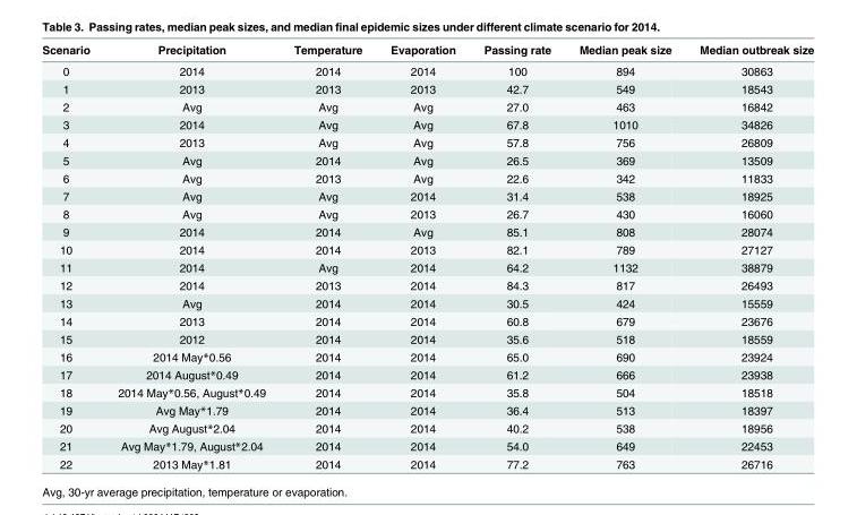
<table><thead><tr><td>Scenario</td><td>Precipitation</td><td>Temperature</td><td>Evaporation</td><td>Passing rate</td><td>Median peak size</td><td>Median outbreak size</td></tr></thead><tbody><tr><td>0</td><td>2014</td><td>2014</td><td>2014</td><td>100</td><td>894</td><td>30863</td></tr><tr><td>1</td><td>2013</td><td>2013</td><td>2013</td><td>42.7</td><td>549</td><td>18543</td></tr><tr><td>2</td><td>Avg</td><td>Avg</td><td>Avg</td><td>27.0</td><td>463</td><td>16842</td></tr><tr><td>3</td><td>2014</td><td>Avg</td><td>Avg</td><td>67.8</td><td>1010</td><td>34826</td></tr><tr><td>4</td><td>2013</td><td>Avg</td><td>Avg</td><td>57.8</td><td>756</td><td>26809</td></tr><tr><td>5</td><td>Avg</td><td>2014</td><td>Avg</td><td>26.5</td><td>369</td><td>13509</td></tr><tr><td>6</td><td>Avg</td><td>2013</td><td>Avg</td><td>22.6</td><td>342</td><td>11833</td></tr><tr><td>7</td><td>Avg</td><td>Avg</td><td>2014</td><td>31.4</td><td>538</td><td>18925</td></tr><tr><td>8</td><td>Avg</td><td>Avg</td><td>2013</td><td>26.7</td><td>430</td><td>16060</td></tr><tr><td>9</td><td>2014</td><td>2014</td><td>Avg</td><td>85.1</td><td>808</td><td>28074</td></tr><tr><td>10</td><td>2014</td><td>2014</td><td>2013</td><td>82.1</td><td>789</td><td>27127</td></tr><tr><td>11</td><td>2014</td><td>Avg</td><td>2014</td><td>64.2</td><td>1132</td><td>38879</td></tr><tr><td>12</td><td>2014</td><td>2013</td><td>2014</td><td>84.3</td><td>817</td><td>26493</td></tr><tr><td>13</td><td>Avg</td><td>2014</td><td>2014</td><td>30.5</td><td>424</td><td>15559</td></tr><tr><td>14</td><td>2013</td><td>2014</td><td>2014</td><td>60.8</td><td>679</td><td>23676</td></tr><tr><td>15</td><td>2012</td><td>2014</td><td>2014</td><td>35.6</td><td>518</td><td>18559</td></tr><tr><td>16</td><td>2014 May*0.56</td><td>2014</td><td>2014</td><td>65.0</td><td>690</td><td>23924</td></tr><tr><td>17</td><td>2014 August*0.49</td><td>2014</td><td>2014</td><td>61.2</td><td>666</td><td>23938</td></tr><tr><td>18</td><td>2014 May*0.56, August*0.49</td><td>2014</td><td>2014</td><td>35.8</td><td>504</td><td>18518</td></tr><tr><td>19</td><td>Avg May*1.79</td><td>2014</td><td>2014</td><td>36.4</td><td>513</td><td>18397</td></tr><tr><td>20</td><td>Avg August*2.04</td><td>2014</td><td>2014</td><td>40.2</td><td>538</td><td>18956</td></tr><tr><td>21</td><td>Avg May*1.79, August*2.04</td><td>2014</td><td>2014</td><td>54.0</td><td>649</td><td>22453</td></tr><tr><td>22</td><td>2013 May*1.81</td><td>2014</td><td>2014</td><td>77.2</td><td>763</td><td>26716</td></tr></tbody></table>